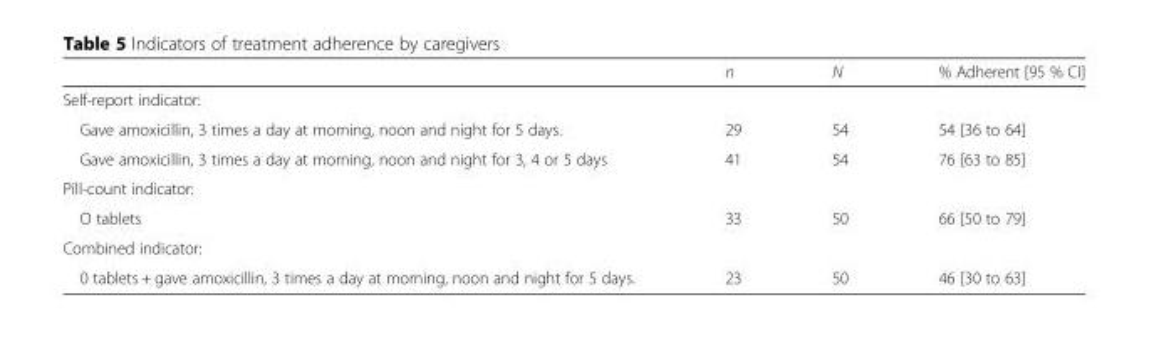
<table><thead><tr><td></td><td>n</td><td>N</td><td>% Adherent [95 % CI]</td></tr></thead><tbody><tr><td colspan="4">Self-report indicator:</td></tr><tr><td>Gave amoxicillin, 3 times a day at morning, noon and night for 5 days.</td><td>29</td><td>54</td><td>54 [36 to 64]</td></tr><tr><td>Gave amoxicillin, 3 times a day at morning, noon and night for 3, 4 or 5 days</td><td>41</td><td>54</td><td>76 [63 to 85]</td></tr><tr><td colspan="4">Pill-count indicator:</td></tr><tr><td>O tablets</td><td>33</td><td>50</td><td>66 [50 to 79]</td></tr><tr><td colspan="4">Combined indicator:</td></tr><tr><td>0 tablets + gave amoxicillin, 3 times a day at morning, noon and night for 5 days.</td><td>23</td><td>50</td><td>46 [30 to 63]</td></tr></tbody></table>